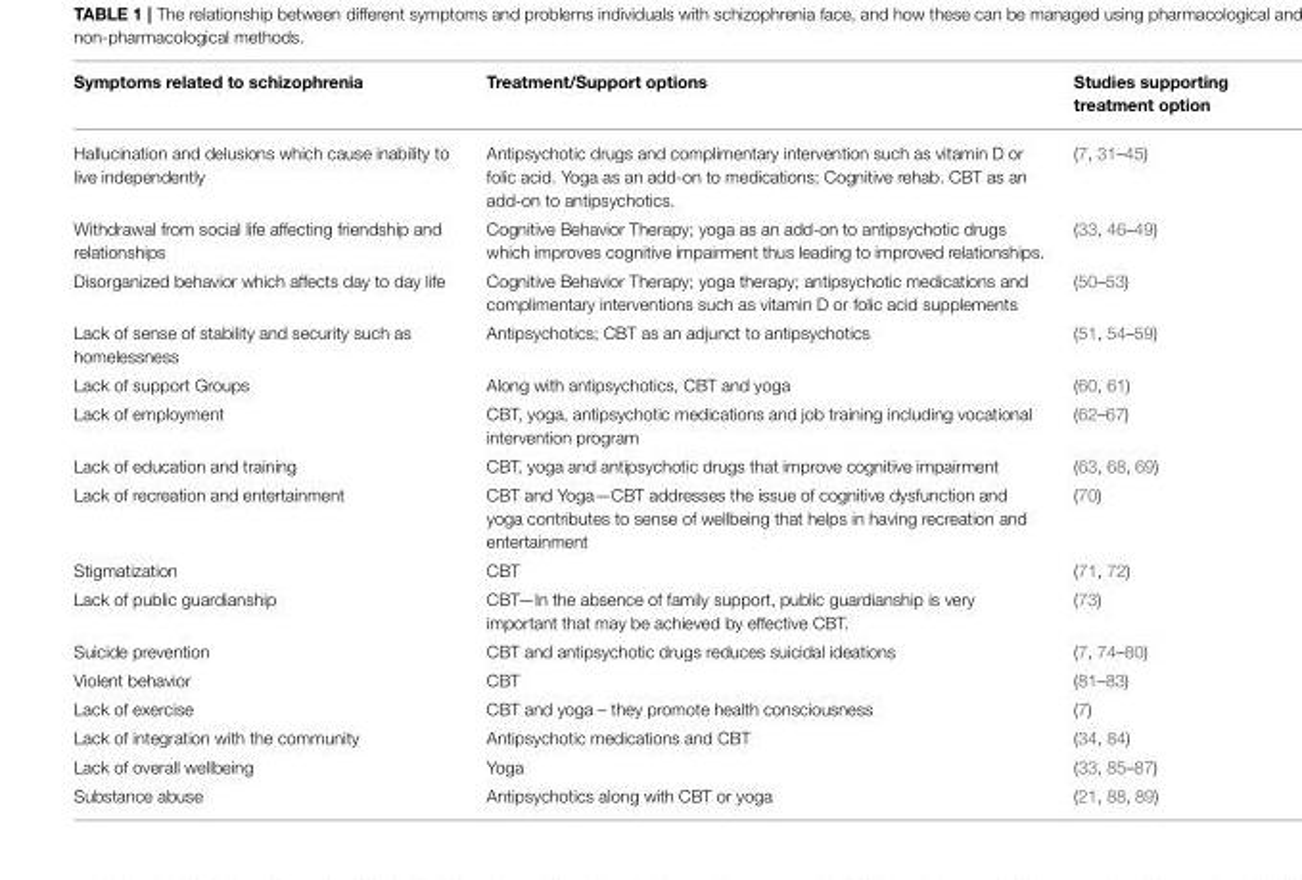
<table><thead><tr><td>Symptoms related to schizophrenia</td><td>Treatment/Support options</td><td>Studies supporting treatment option</td></tr></thead><tbody><tr><td>Hallucination and delusions which cause inability to live independently</td><td>Antipsychotic drugs and complimentary intervention such as vitamin D or folic acid. Yoga as an add-on to medications; Cognitive rehab. CBT as an add-on to antipsychotics.</td><td>(7, 31–45)</td></tr><tr><td>Withdrawal from social life affecting friendship and relationships</td><td>Cognitive Behavior Therapy; yoga as an add-on to antipsychotic drugs which improves cognitive impairment thus leading to improved relationships.</td><td>(33, 46–49)</td></tr><tr><td>Disorganized behavior which affects day to day life</td><td>Cognitive Behavior Therapy; yoga therapy; antipsychotic medications and complimentary interventions such as vitamin D or folic acid supplements</td><td>(50–53)</td></tr><tr><td>Lack of sense of stability and security such as homelessness</td><td>Antipsychotics; CBT as an adjunct to antipsychotics</td><td>(51, 54–59)</td></tr><tr><td>Lack of support Groups</td><td>Along with antipsychotics, CBT and yoga</td><td>(60, 61)</td></tr><tr><td>Lack of employment</td><td>CBT, yoga, antipsychotic medications and job training including vocational intervention program</td><td>(62–67)</td></tr><tr><td>Lack of education and training</td><td>CBT, yoga and antipsychotic drugs that improve cognitive impairment</td><td>(63, 68, 69)</td></tr><tr><td>Lack of recreation and entertainment</td><td>CBT and Yoga—CBT addresses the issue of cognitive dysfunction and yoga contributes to sense of wellbeing that helps in having recreation and entertainment</td><td>(70)</td></tr><tr><td>Stigmatization</td><td>CBT</td><td>(71, 72)</td></tr><tr><td>Lack of public guardianship</td><td>CBT—In the absence of family support, public guardianship is very important that may be achieved by effective CBT.</td><td>(73)</td></tr><tr><td>Suicide prevention</td><td>CBT and antipsychotic drugs reduces suicidal ideations</td><td>(7, 74–80)</td></tr><tr><td>Violent behavior</td><td>CBT</td><td>(81–83)</td></tr><tr><td>Lack of exercise</td><td>CBT and yoga – they promote health consciousness</td><td>(7)</td></tr><tr><td>Lack of integration with the community</td><td>Antipsychotic medications and CBT</td><td>(34, 84)</td></tr><tr><td>Lack of overall wellbeing</td><td>Yoga</td><td>(33, 85–87)</td></tr><tr><td>Substance abuse</td><td>Antipsychotics along with CBT or yoga</td><td>(21, 88, 89)</td></tr></tbody></table>